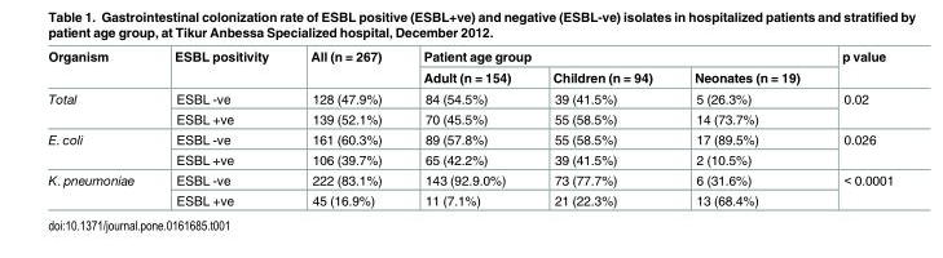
<table><thead><tr><td rowspan="2">Organism</td><td rowspan="2">ESBL positivity</td><td rowspan="2">All (n = 267)</td><td colspan="3">Patient age group</td><td rowspan="2">p value</td></tr><tr><td>Adult (n = 154)</td><td>Children (n = 94)</td><td>Neonates (n = 19)</td></tr></thead><tbody><tr><td rowspan="2">Total</td><td>ESBL -ve</td><td>128 (47.9%)</td><td>84 (54.5%)</td><td>39 (41.5%)</td><td>5 (26.3%)</td><td rowspan="2">0.02</td></tr><tr><td>ESBL +ve</td><td>139 (52.1%)</td><td>70 (45.5%)</td><td>55 (58.5%)</td><td>14 (73.7%)</td></tr><tr><td rowspan="2">E. coli</td><td>ESBL -ve</td><td>161 (60.3%)</td><td>89 (57.8%)</td><td>55 (58.5%)</td><td>17 (89.5%)</td><td rowspan="2">0.026</td></tr><tr><td>ESBL +ve</td><td>106 (39.7%)</td><td>65 (42.2%)</td><td>39 (41.5%)</td><td>2 (10.5%)</td></tr><tr><td rowspan="2">K. pneumoniae</td><td>ESBL -ve</td><td>222 (83.1%)</td><td>143 (92.9.0%)</td><td>73 (77.7%)</td><td>6 (31.6%)</td><td rowspan="2">&lt; 0.0001</td></tr><tr><td>ESBL +ve</td><td>45 (16.9%)</td><td>11 (7.1%)</td><td>21 (22.3%)</td><td>13 (68.4%)</td></tr></tbody></table>